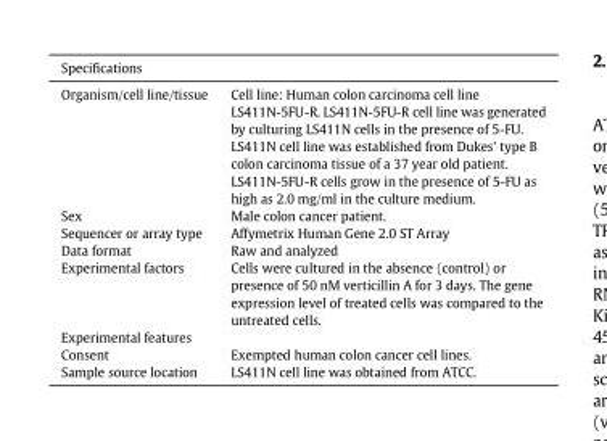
<table><thead><tr><td colspan="2">Specifications</td></tr><tr><td>Organism/cell line/tissue</td><td>Cell line: Human colon carcinoma cell line LS411N-5FU-R. LS411N-5FU-R cell line was generated by culturing LS411N cells in the presence of 5-FU. LS411N cell line was established from Dukes&#x27; type B colon carcinoma tissue of a 37 year old patient. LS411N-5FU-R cells grow in the presence of 5-FU as high as 2.0 mg/ml in the culture medium.</td></tr></thead><tbody><tr><td>Sex</td><td>Male colon cancer patient.</td></tr><tr><td>Sequencer or array type</td><td>Affymetrix Human Gene 2.0 ST Array</td></tr><tr><td>Data format</td><td>Raw and analyzed</td></tr><tr><td>Experimental factors</td><td>Cells were cultured in the absence (control) or presence of 50 nM verticillin A for 3 days. The gene expression level of treated cells was compared to the untreated cells.</td></tr><tr><td colspan="2">Experimental features</td></tr><tr><td>Consent</td><td>Exempted human colon cancer cell lines.</td></tr><tr><td>Sample source location</td><td>LS411N cell line was obtained from ATCC.</td></tr></tbody></table>